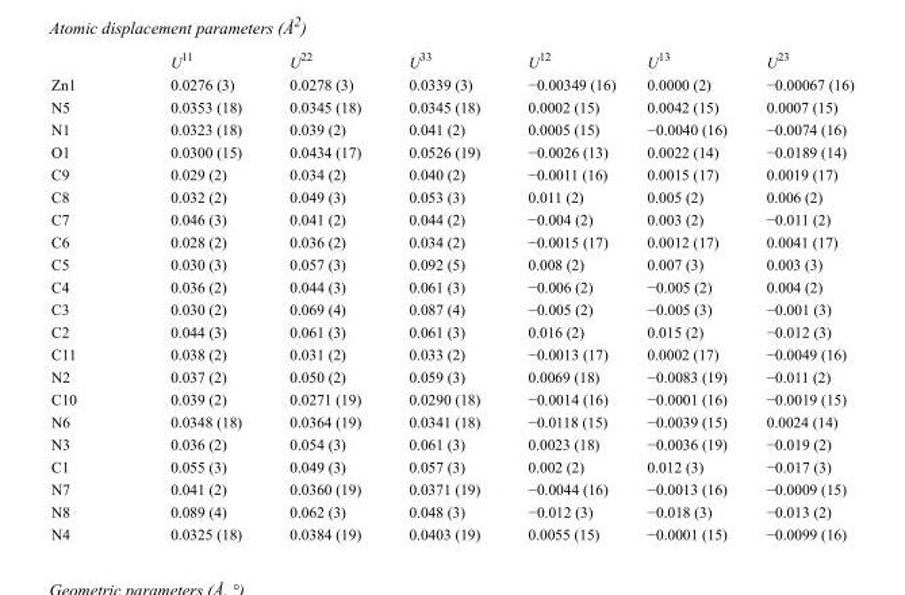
<table><thead><tr><td></td><td>U<sup>11</sup></td><td>U<sup>22</sup></td><td>U<sup>33</sup></td><td>U<sup>12</sup></td><td>U<sup>13</sup></td><td>U<sup>23</sup></td></tr></thead><tbody><tr><td>Zn1</td><td>0.0276 (3)</td><td>0.0278 (3)</td><td>0.0339 (3)</td><td>−0.00349 (16)</td><td>0.0000 (2)</td><td>−0.00067 (16)</td></tr><tr><td>N5</td><td>0.0353 (18)</td><td>0.0345 (18)</td><td>0.0345 (18)</td><td>0.0002 (15)</td><td>0.0042 (15)</td><td>0.0007 (15)</td></tr><tr><td>N1</td><td>0.0323 (18)</td><td>0.039 (2)</td><td>0.041 (2)</td><td>0.0005 (15)</td><td>−0.0040 (16)</td><td>−0.0074 (16)</td></tr><tr><td>O1</td><td>0.0300 (15)</td><td>0.0434 (17)</td><td>0.0526 (19)</td><td>−0.0026 (13)</td><td>0.0022 (14)</td><td>−0.0189 (14)</td></tr><tr><td>C9</td><td>0.029 (2)</td><td>0.034 (2)</td><td>0.040 (2)</td><td>−0.0011 (16)</td><td>0.0015 (17)</td><td>0.0019 (17)</td></tr><tr><td>C8</td><td>0.032 (2)</td><td>0.049 (3)</td><td>0.053 (3)</td><td>0.011 (2)</td><td>0.005 (2)</td><td>0.006 (2)</td></tr><tr><td>C7</td><td>0.046 (3)</td><td>0.041 (2)</td><td>0.044 (2)</td><td>−0.004 (2)</td><td>0.003 (2)</td><td>−0.011 (2)</td></tr><tr><td>C6</td><td>0.028 (2)</td><td>0.036 (2)</td><td>0.034 (2)</td><td>−0.0015 (17)</td><td>0.0012 (17)</td><td>0.0041 (17)</td></tr><tr><td>C5</td><td>0.030 (3)</td><td>0.057 (3)</td><td>0.092 (5)</td><td>0.008 (2)</td><td>0.007 (3)</td><td>0.003 (3)</td></tr><tr><td>C4</td><td>0.036 (2)</td><td>0.044 (3)</td><td>0.061 (3)</td><td>−0.006 (2)</td><td>−0.005 (2)</td><td>0.004 (2)</td></tr><tr><td>C3</td><td>0.030 (2)</td><td>0.069 (4)</td><td>0.087 (4)</td><td>−0.005 (2)</td><td>−0.005 (3)</td><td>−0.001 (3)</td></tr><tr><td>C2</td><td>0.044 (3)</td><td>0.061 (3)</td><td>0.061 (3)</td><td>0.016 (2)</td><td>0.015 (2)</td><td>−0.012 (3)</td></tr><tr><td>C11</td><td>0.038 (2)</td><td>0.031 (2)</td><td>0.033 (2)</td><td>−0.0013 (17)</td><td>0.0002 (17)</td><td>−0.0049 (16)</td></tr><tr><td>N2</td><td>0.037 (2)</td><td>0.050 (2)</td><td>0.059 (3)</td><td>0.0069 (18)</td><td>−0.0083 (19)</td><td>−0.011 (2)</td></tr><tr><td>C10</td><td>0.039 (2)</td><td>0.0271 (19)</td><td>0.0290 (18)</td><td>−0.0014 (16)</td><td>−0.0001 (16)</td><td>−0.0019 (15)</td></tr><tr><td>N6</td><td>0.0348 (18)</td><td>0.0364 (19)</td><td>0.0341 (18)</td><td>−0.0118 (15)</td><td>−0.0039 (15)</td><td>0.0024 (14)</td></tr><tr><td>N3</td><td>0.036 (2)</td><td>0.054 (3)</td><td>0.061 (3)</td><td>0.0023 (18)</td><td>−0.0036 (19)</td><td>−0.019 (2)</td></tr><tr><td>C1</td><td>0.055 (3)</td><td>0.049 (3)</td><td>0.057 (3)</td><td>0.002 (2)</td><td>0.012 (3)</td><td>−0.017 (3)</td></tr><tr><td>N7</td><td>0.041 (2)</td><td>0.0360 (19)</td><td>0.0371 (19)</td><td>−0.0044 (16)</td><td>−0.0013 (16)</td><td>−0.0009 (15)</td></tr><tr><td>N8</td><td>0.089 (4)</td><td>0.062 (3)</td><td>0.048 (3)</td><td>−0.012 (3)</td><td>−0.018 (3)</td><td>−0.013 (2)</td></tr><tr><td>N4</td><td>0.0325 (18)</td><td>0.0384 (19)</td><td>0.0403 (19)</td><td>0.0055 (15)</td><td>−0.0001 (15)</td><td>−0.0099 (16)</td></tr></tbody></table>